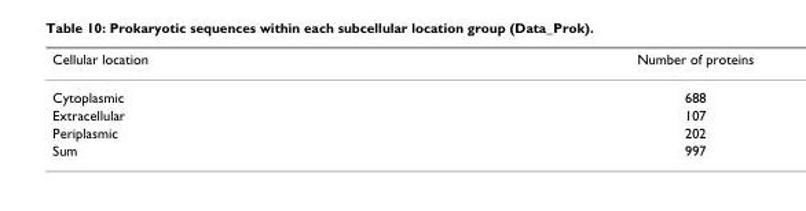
<table><thead><tr><td>Cellular location</td><td>Number of proteins</td></tr></thead><tbody><tr><td>Cytoplasmic</td><td>688</td></tr><tr><td>Extracellular</td><td>107</td></tr><tr><td>Periplasmic</td><td>202</td></tr><tr><td>Sum</td><td>997</td></tr></tbody></table>